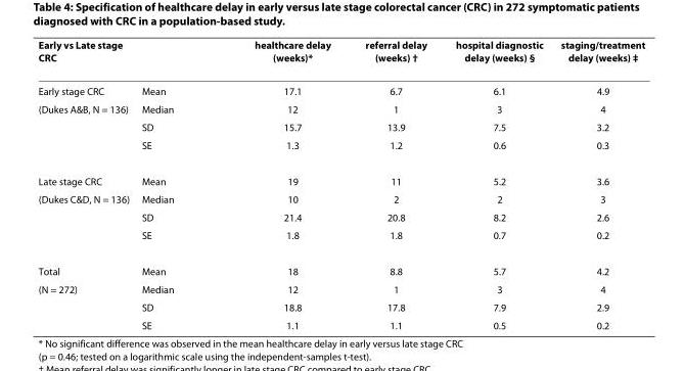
<table><thead><tr><td>Early vs Late stage CRC</td><td></td><td>healthcare delay (weeks)*</td><td>referral delay (weeks) †</td><td>hospital diagnostic delay (weeks) §</td><td>staging/treatment delay (weeks) ‡</td></tr></thead><tbody><tr><td>Early stage CRC</td><td>Mean</td><td>17.1</td><td>6.7</td><td>6.1</td><td>4.9</td></tr><tr><td rowspan="3">(Dukes A&amp;B, N = 136)</td><td>Median</td><td>12</td><td>1</td><td>3</td><td>4</td></tr><tr><td>SD</td><td>15.7</td><td>13.9</td><td>7.5</td><td>3.2</td></tr><tr><td>SE</td><td>1.3</td><td>1.2</td><td>0.6</td><td>0.3</td></tr><tr><td>Late stage CRC</td><td>Mean</td><td>19</td><td>11</td><td>5.2</td><td>3.6</td></tr><tr><td rowspan="3">(Dukes C&amp;D, N = 136)</td><td>Median</td><td>10</td><td>2</td><td>2</td><td>3</td></tr><tr><td>SD</td><td>21.4</td><td>20.8</td><td>8.2</td><td>2.6</td></tr><tr><td>SE</td><td>1.8</td><td>1.8</td><td>0.7</td><td>0.2</td></tr><tr><td>Total</td><td>Mean</td><td>18</td><td>8.8</td><td>5.7</td><td>4.2</td></tr><tr><td rowspan="3">(N = 272)</td><td>Median</td><td>12</td><td>1</td><td>3</td><td>4</td></tr><tr><td>SD</td><td>18.8</td><td>17.8</td><td>7.9</td><td>2.9</td></tr><tr><td>SE</td><td>1.1</td><td>1.1</td><td>0.5</td><td>0.2</td></tr></tbody></table>